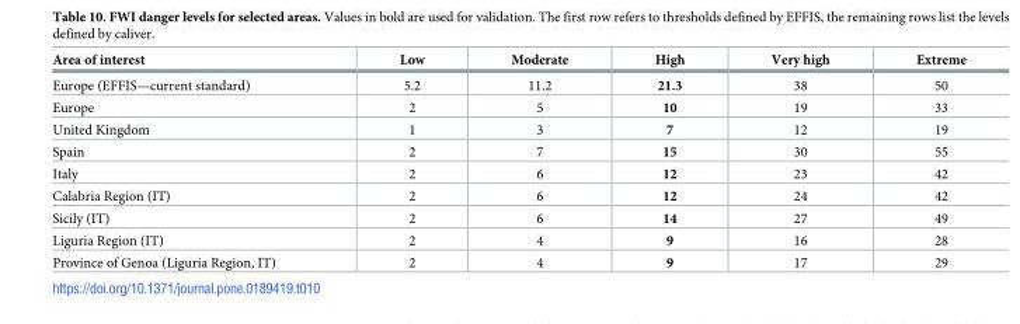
<table><thead><tr><td>Area of interest</td><td>Low</td><td>Moderate</td><td>High</td><td>Very high</td><td>Extreme</td></tr></thead><tbody><tr><td>Europe (EFFIS—current standard)</td><td>5.2</td><td>11.2</td><td>21.3</td><td>38</td><td>50</td></tr><tr><td>Europe</td><td>2</td><td>5</td><td>10</td><td>19</td><td>33</td></tr><tr><td>United Kingdom</td><td>1</td><td>3</td><td>7</td><td>12</td><td>19</td></tr><tr><td>Spain</td><td>2</td><td>7</td><td>15</td><td>30</td><td>55</td></tr><tr><td>Italy</td><td>2</td><td>6</td><td>12</td><td>23</td><td>42</td></tr><tr><td>Calabria Region (IT)</td><td>2</td><td>6</td><td>12</td><td>24</td><td>42</td></tr><tr><td>Sicily (IT)</td><td>2</td><td>6</td><td>14</td><td>27</td><td>49</td></tr><tr><td>Liguria Region (IT)</td><td>2</td><td>4</td><td>9</td><td>16</td><td>28</td></tr><tr><td>Province of Genoa (Liguria Region, IT)</td><td>2</td><td>4</td><td>9</td><td>17</td><td>29</td></tr></tbody></table>